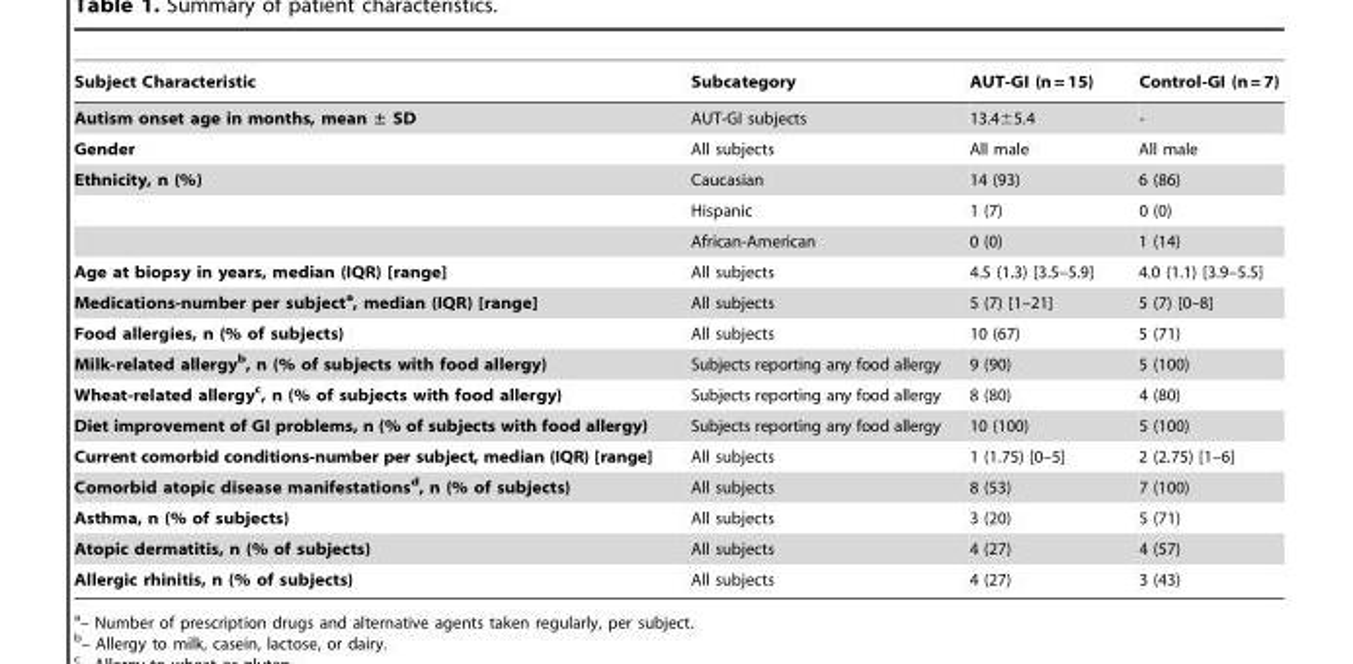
<table><thead><tr><td>Subject Characteristic</td><td>Subcategory</td><td>AUT-GI (n = 15)</td><td>Control-GI (n = 7)</td></tr></thead><tbody><tr><td>Autism onset age in months, mean ± SD</td><td>AUT-GI subjects</td><td>13.4±5.4</td><td>-</td></tr><tr><td>Gender</td><td>All subjects</td><td>All male</td><td>All male</td></tr><tr><td rowspan="3">Ethnicity, n (%)</td><td>Caucasian</td><td>14 (93)</td><td>6 (86)</td></tr><tr><td>Hispanic</td><td>1 (7)</td><td>0 (0)</td></tr><tr><td>African-American</td><td>0 (0)</td><td>1 (14)</td></tr><tr><td>Age at biopsy in years, median (IQR) [range]</td><td>All subjects</td><td>4.5 (1.3) [3.5–5.9]</td><td>4.0 (1.1) [3.9–5.5]</td></tr><tr><td>Medications-number per subjecta, median (IQR) [range]</td><td>All subjects</td><td>5 (7) [1–21]</td><td>5 (7) [0–8]</td></tr><tr><td>Food allergies, n (% of subjects)</td><td>All subjects</td><td>10 (67)</td><td>5 (71)</td></tr><tr><td>Milk-related allergyb, n (% of subjects with food allergy)</td><td>Subjects reporting any food allergy</td><td>9 (90)</td><td>5 (100)</td></tr><tr><td>Wheat-related allergyc, n (% of subjects with food allergy)</td><td>Subjects reporting any food allergy</td><td>8 (80)</td><td>4 (80)</td></tr><tr><td>Diet improvement of GI problems, n (% of subjects with food allergy)</td><td>Subjects reporting any food allergy</td><td>10 (100)</td><td>5 (100)</td></tr><tr><td>Current comorbid conditions-number per subject, median (IQR) [range]</td><td>All subjects</td><td>1 (1.75) [0–5]</td><td>2 (2.75) [1–6]</td></tr><tr><td>Comorbid atopic disease manifestationsd, n (% of subjects)</td><td>All subjects</td><td>8 (53)</td><td>7 (100)</td></tr><tr><td>Asthma, n (% of subjects)</td><td>All subjects</td><td>3 (20)</td><td>5 (71)</td></tr><tr><td>Atopic dermatitis, n (% of subjects)</td><td>All subjects</td><td>4 (27)</td><td>4 (57)</td></tr><tr><td>Allergic rhinitis, n (% of subjects)</td><td>All subjects</td><td>4 (27)</td><td>3 (43)</td></tr></tbody></table>